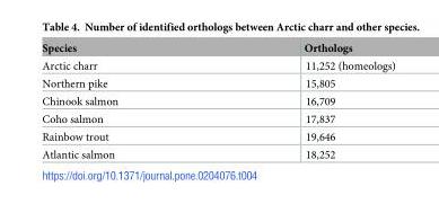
<table><thead><tr><td>Species</td><td>Orthologs</td></tr></thead><tbody><tr><td>Arctic charr</td><td>11,252 (homeologs)</td></tr><tr><td>Northern pike</td><td>15,805</td></tr><tr><td>Chinook salmon</td><td>16,709</td></tr><tr><td>Coho salmon</td><td>17,837</td></tr><tr><td>Rainbow trout</td><td>19,646</td></tr><tr><td>Atlantic salmon</td><td>18,252</td></tr></tbody></table>